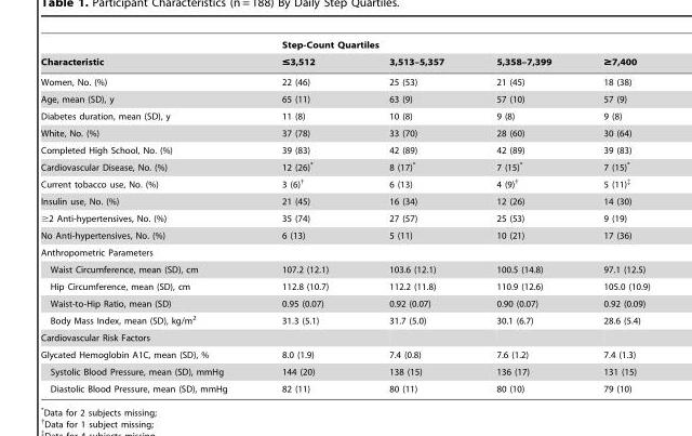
<table><thead><tr><td rowspan="2">Characteristic</td><td colspan="4">Step-Count Quartiles</td></tr><tr><td>≤3,512</td><td>3,513–5,357</td><td>5,358–7,399</td><td>≥7,400</td></tr></thead><tbody><tr><td>Women, No. (%)</td><td>22 (46)</td><td>25 (53)</td><td>21 (45)</td><td>18 (38)</td></tr><tr><td>Age, mean (SD), y</td><td>65 (11)</td><td>63 (9)</td><td>57 (10)</td><td>57 (9)</td></tr><tr><td>Diabetes duration, mean (SD), y</td><td>11 (8)</td><td>10 (8)</td><td>9 (8)</td><td>9 (8)</td></tr><tr><td>White, No. (%)</td><td>37 (78)</td><td>33 (70)</td><td>28 (60)</td><td>30 (64)</td></tr><tr><td>Completed High School, No. (%)</td><td>39 (83)</td><td>42 (89)</td><td>42 (89)</td><td>39 (83)</td></tr><tr><td>Cardiovascular Disease, No. (%)</td><td>12 (26)*</td><td>8 (17)*</td><td>7 (15)*</td><td>7 (15)*</td></tr><tr><td>Current tobacco use, No. (%)</td><td>3 (6)†</td><td>6 (13)</td><td>4 (9)†</td><td>5 (11)‡</td></tr><tr><td>Insulin use, No. (%)</td><td>21 (45)</td><td>16 (34)</td><td>12 (26)</td><td>14 (30)</td></tr><tr><td>≥2 Anti-hypertensives, No. (%)</td><td>35 (74)</td><td>27 (57)</td><td>25 (53)</td><td>9 (19)</td></tr><tr><td>No Anti-hypertensives, No. (%)</td><td>6 (13)</td><td>5 (11)</td><td>10 (21)</td><td>17 (36)</td></tr><tr><td colspan="5">Anthropometric Parameters</td></tr><tr><td>Waist Circumference, mean (SD), cm</td><td>107.2 (12.1)</td><td>103.6 (12.1)</td><td>100.5 (14.8)</td><td>97.1 (12.5)</td></tr><tr><td>Hip Circumference, mean (SD), cm</td><td>112.8 (10.7)</td><td>112.2 (11.8)</td><td>110.9 (12.6)</td><td>105.0 (10.9)</td></tr><tr><td>Waist-to-Hip Ratio, mean (SD)</td><td>0.95 (0.07)</td><td>0.92 (0.07)</td><td>0.90 (0.07)</td><td>0.92 (0.09)</td></tr><tr><td>Body Mass Index, mean (SD), kg/m<sup>2</sup></td><td>31.3 (5.1)</td><td>31.7 (5.0)</td><td>30.1 (6.7)</td><td>28.6 (5.4)</td></tr><tr><td colspan="5">Cardiovascular Risk Factors</td></tr><tr><td>Glycated Hemoglobin A1C, mean (SD), %</td><td>8.0 (1.9)</td><td>7.4 (0.8)</td><td>7.6 (1.2)</td><td>7.4 (1.3)</td></tr><tr><td>Systolic Blood Pressure, mean (SD), mmHg</td><td>144 (20)</td><td>138 (15)</td><td>136 (17)</td><td>131 (15)</td></tr><tr><td>Diastolic Blood Pressure, mean (SD), mmHg</td><td>82 (11)</td><td>80 (11)</td><td>80 (10)</td><td>79 (10)</td></tr></tbody></table>